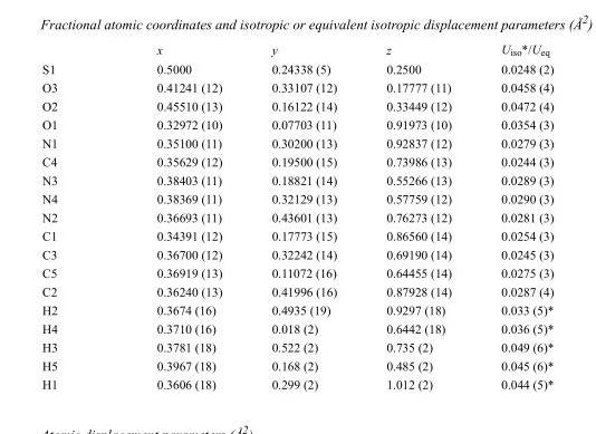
<table><thead><tr><td></td><td>x</td><td>y</td><td>z</td><td>U<sub>iso</sub>*/U<sub>eq</sub></td></tr></thead><tbody><tr><td>S1</td><td>0.5000</td><td>0.24338 (5)</td><td>0.2500</td><td>0.0248 (2)</td></tr><tr><td>O3</td><td>0.41241 (12)</td><td>0.33107 (12)</td><td>0.17777 (11)</td><td>0.0458 (4)</td></tr><tr><td>O2</td><td>0.45510 (13)</td><td>0.16122 (14)</td><td>0.33449 (12)</td><td>0.0472 (4)</td></tr><tr><td>O1</td><td>0.32972 (10)</td><td>0.07703 (11)</td><td>0.91973 (10)</td><td>0.0354 (3)</td></tr><tr><td>N1</td><td>0.35100 (11)</td><td>0.30200 (13)</td><td>0.92837 (12)</td><td>0.0279 (3)</td></tr><tr><td>C4</td><td>0.35629 (12)</td><td>0.19500 (15)</td><td>0.73986 (13)</td><td>0.0244 (3)</td></tr><tr><td>N3</td><td>0.38403 (11)</td><td>0.18821 (14)</td><td>0.55266 (13)</td><td>0.0289 (3)</td></tr><tr><td>N4</td><td>0.38369 (11)</td><td>0.32129 (13)</td><td>0.57759 (12)</td><td>0.0290 (3)</td></tr><tr><td>N2</td><td>0.36693 (11)</td><td>0.43601 (13)</td><td>0.76273 (12)</td><td>0.0281 (3)</td></tr><tr><td>C1</td><td>0.34391 (12)</td><td>0.17773 (15)</td><td>0.86560 (14)</td><td>0.0254 (3)</td></tr><tr><td>C3</td><td>0.36700 (12)</td><td>0.32242 (14)</td><td>0.69190 (14)</td><td>0.0245 (3)</td></tr><tr><td>C5</td><td>0.36919 (13)</td><td>0.11072 (16)</td><td>0.64455 (14)</td><td>0.0275 (3)</td></tr><tr><td>C2</td><td>0.36240 (13)</td><td>0.41996 (16)</td><td>0.87928 (14)</td><td>0.0287 (4)</td></tr><tr><td>H2</td><td>0.3674 (16)</td><td>0.4935 (19)</td><td>0.9297 (18)</td><td>0.033 (5)*</td></tr><tr><td>H4</td><td>0.3710 (16)</td><td>0.018 (2)</td><td>0.6442 (18)</td><td>0.036 (5)*</td></tr><tr><td>H3</td><td>0.3781 (18)</td><td>0.522 (2)</td><td>0.735 (2)</td><td>0.049 (6)*</td></tr><tr><td>H5</td><td>0.3967 (18)</td><td>0.168 (2)</td><td>0.485 (2)</td><td>0.045 (6)*</td></tr><tr><td>H1</td><td>0.3606 (18)</td><td>0.299 (2)</td><td>1.012 (2)</td><td>0.044 (5)*</td></tr></tbody></table>